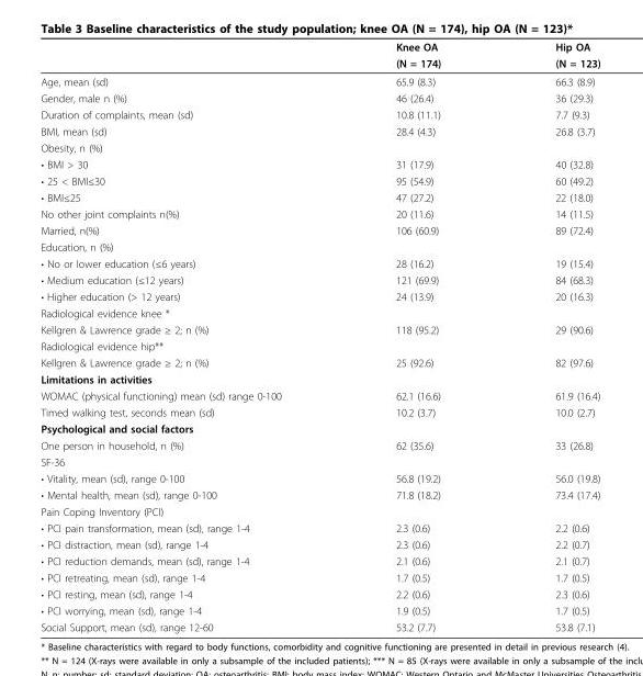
<table><thead><tr><td rowspan="2"></td><td rowspan="2">Knee OA (N = 174)</td><td rowspan="2">Hip OA (N = 123)</td></tr><tr></tr></thead><tbody><tr><td>Age, mean (sd)</td><td>65.9 (8.3)</td><td>66.3 (8.9)</td></tr><tr><td>Gender, male n (%)</td><td>46 (26.4)</td><td>36 (29.3)</td></tr><tr><td>Duration of complaints, mean (sd)</td><td>10.8 (11.1)</td><td>7.7 (9.3)</td></tr><tr><td>BMI, mean (sd)</td><td>28.4 (4.3)</td><td>26.8 (3.7)</td></tr><tr><td colspan="3">Obesity, n (%)</td></tr><tr><td>• BMI &gt; 30</td><td>31 (17.9)</td><td>40 (32.8)</td></tr><tr><td>• 25 &lt; BMI≤30</td><td>95 (54.9)</td><td>60 (49.2)</td></tr><tr><td>• BMI≤25</td><td>47 (27.2)</td><td>22 (18.0)</td></tr><tr><td>No other joint complaints n(%)</td><td>20 (11.6)</td><td>14 (11.5)</td></tr><tr><td>Married, n(%)</td><td>106 (60.9)</td><td>89 (72.4)</td></tr><tr><td colspan="3">Education, n (%)</td></tr><tr><td>• No or lower education (≤6 years)</td><td>28 (16.2)</td><td>19 (15.4)</td></tr><tr><td>• Medium education (≤12 years)</td><td>121 (69.9)</td><td>84 (68.3)</td></tr><tr><td>• Higher education (&gt; 12 years)</td><td>24 (13.9)</td><td>20 (16.3)</td></tr><tr><td colspan="3">Radiological evidence knee *</td></tr><tr><td>Kellgren &amp; Lawrence grade ≥ 2; n (%)</td><td>118 (95.2)</td><td>29 (90.6)</td></tr><tr><td colspan="3">Radiological evidence hip**</td></tr><tr><td>Kellgren &amp; Lawrence grade ≥ 2; n (%)</td><td>25 (92.6)</td><td>82 (97.6)</td></tr><tr><td colspan="3">Limitations in activities</td></tr><tr><td>WOMAC (physical functioning) mean (sd) range 0-100</td><td>62.1 (16.6)</td><td>61.9 (16.4)</td></tr><tr><td>Timed walking test, seconds mean (sd)</td><td>10.2 (3.7)</td><td>10.0 (2.7)</td></tr><tr><td colspan="3">Psychological and social factors</td></tr><tr><td>One person in household, n (%)</td><td>62 (35.6)</td><td>33 (26.8)</td></tr><tr><td colspan="3">SF-36</td></tr><tr><td>• Vitality, mean (sd), range 0-100</td><td>56.8 (19.2)</td><td>56.0 (19.8)</td></tr><tr><td>• Mental health, mean (sd), range 0-100</td><td>71.8 (18.2)</td><td>73.4 (17.4)</td></tr><tr><td colspan="3">Pain Coping Inventory (PCI)</td></tr><tr><td>• PCI pain transformation, mean (sd), range 1-4</td><td>2.3 (0.6)</td><td>2.2 (0.6)</td></tr><tr><td>• PCI distraction, mean (sd), range 1-4</td><td>2.3 (0.6)</td><td>2.2 (0.7)</td></tr><tr><td>• PCI reduction demands, mean (sd), range 1-4</td><td>2.1 (0.6)</td><td>2.1 (0.7)</td></tr><tr><td>• PCI retreating, mean (sd), range 1-4</td><td>1.7 (0.5)</td><td>1.7 (0.5)</td></tr><tr><td>• PCI resting, mean (sd), range 1-4</td><td>2.2 (0.6)</td><td>2.3 (0.6)</td></tr><tr><td>• PCI worrying, mean (sd), range 1-4</td><td>1.9 (0.5)</td><td>1.7 (0.5)</td></tr><tr><td>Social Support, mean (sd), range 12-60</td><td>53.2 (7.7)</td><td>53.8 (7.1)</td></tr></tbody></table>